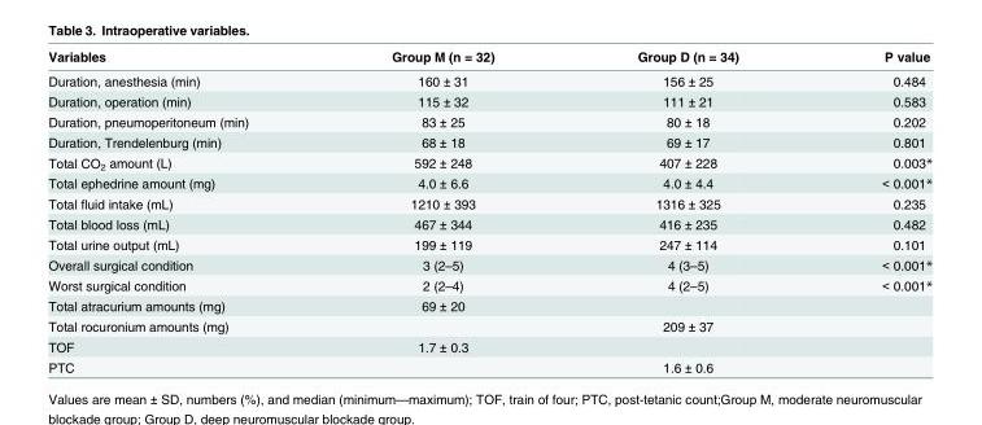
<table><thead><tr><td>Variables</td><td>Group M (n = 32)</td><td>Group D (n = 34)</td><td>P value</td></tr></thead><tbody><tr><td>Duration, anesthesia (min)</td><td>160 ± 31</td><td>156 ± 25</td><td>0.484</td></tr><tr><td>Duration, operation (min)</td><td>115 ± 32</td><td>111 ± 21</td><td>0.583</td></tr><tr><td>Duration, pneumoperitoneum (min)</td><td>83 ± 25</td><td>80 ± 18</td><td>0.202</td></tr><tr><td>Duration, Trendelenburg (min)</td><td>68 ± 18</td><td>69 ± 17</td><td>0.801</td></tr><tr><td>Total CO<sub>2</sub> amount (L)</td><td>592 ± 248</td><td>407 ± 228</td><td>0.003*</td></tr><tr><td>Total ephedrine amount (mg)</td><td>4.0 ± 6.6</td><td>4.0 ± 4.4</td><td>&lt; 0.001*</td></tr><tr><td>Total fluid intake (mL)</td><td>1210 ± 393</td><td>1316 ± 325</td><td>0.235</td></tr><tr><td>Total blood loss (mL)</td><td>467 ± 344</td><td>416 ± 235</td><td>0.482</td></tr><tr><td>Total urine output (mL)</td><td>199 ± 119</td><td>247 ± 114</td><td>0.101</td></tr><tr><td>Overall surgical condition</td><td>3 (2–5)</td><td>4 (3–5)</td><td>&lt; 0.001*</td></tr><tr><td>Worst surgical condition</td><td>2 (2–4)</td><td>4 (2–5)</td><td>&lt; 0.001*</td></tr><tr><td>Total atracurium amounts (mg)</td><td>69 ± 20</td><td></td><td></td></tr><tr><td>Total rocuronium amounts (mg)</td><td></td><td>209 ± 37</td><td></td></tr><tr><td>TOF</td><td>1.7 ± 0.3</td><td></td><td></td></tr><tr><td>PTC</td><td></td><td>1.6 ± 0.6</td><td></td></tr></tbody></table>